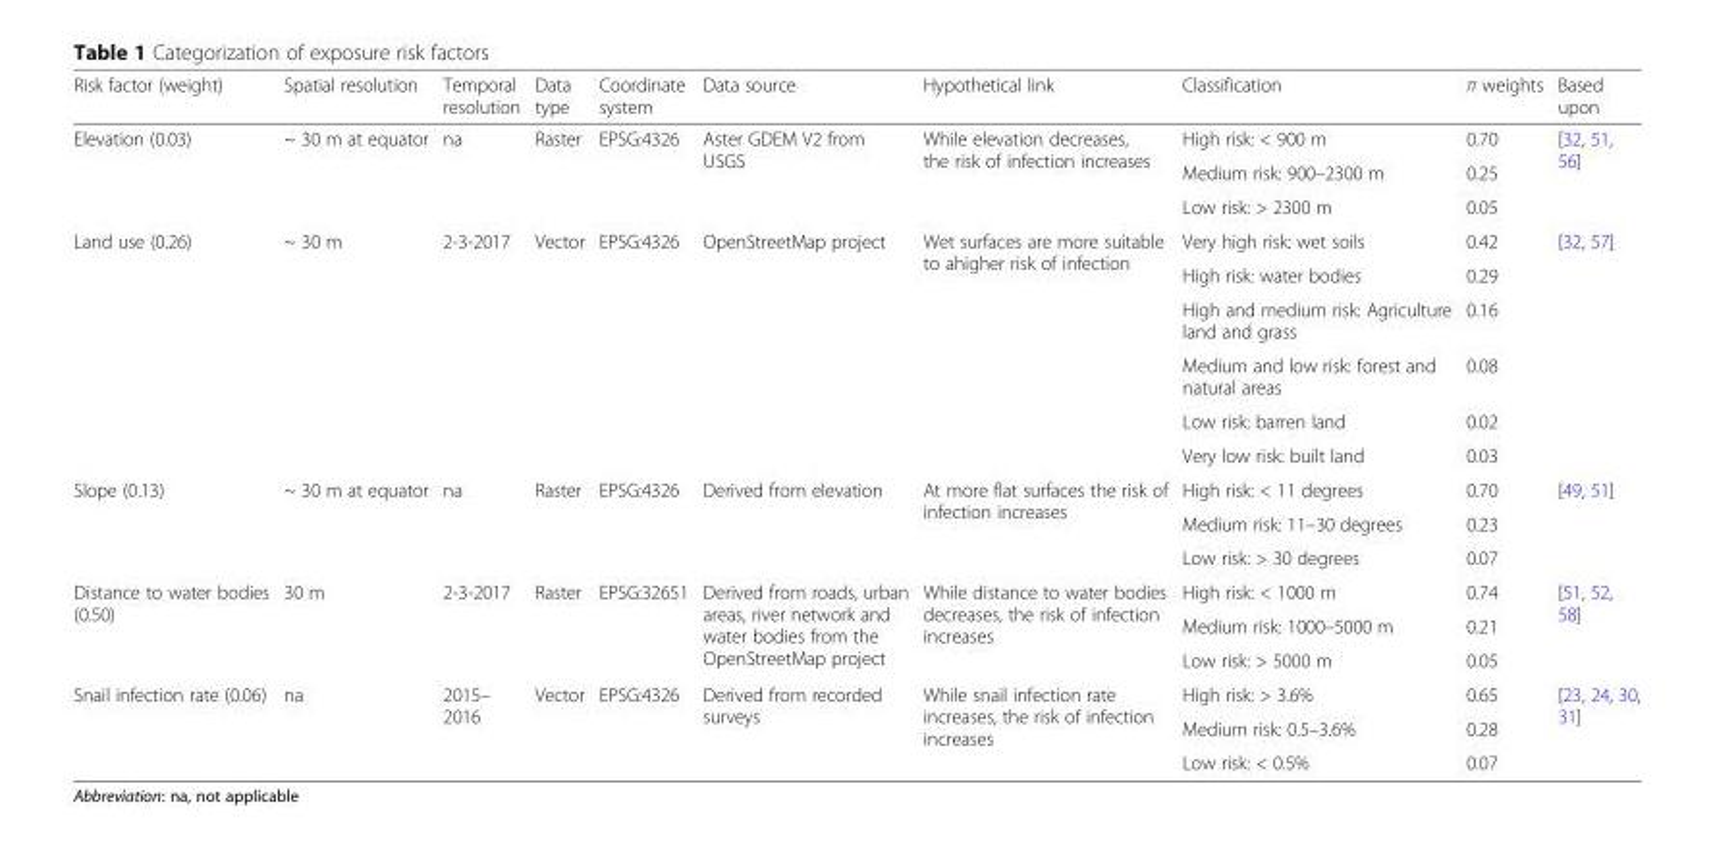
<table><thead><tr><td>Risk factor (weight)</td><td>Spatial resolution</td><td>Temporal resolution</td><td>Data type</td><td>Coordinate system</td><td>Data source</td><td>Hypothetical link</td><td>Classification</td><td>π weights</td><td>Based upon</td></tr></thead><tbody><tr><td rowspan="3">Elevation (0.03)</td><td rowspan="3">~ 30 m at equator</td><td rowspan="3">na</td><td rowspan="3">Raster</td><td rowspan="3">EPSG:4326</td><td rowspan="3">Aster GDEM V2 from USGS</td><td rowspan="3">While elevation decreases, the risk of infection increases</td><td>High risk: &lt; 900 m</td><td>0.70</td><td rowspan="3">[32, 51, 56]</td></tr><tr><td>Medium risk: 900–2300 m</td><td>0.25</td></tr><tr><td>Low risk: &gt; 2300 m</td><td>0.05</td></tr><tr><td rowspan="6">Land use (0.26)</td><td rowspan="6">~ 30 m</td><td rowspan="6">2-3-2017</td><td rowspan="6">Vector</td><td rowspan="6">EPSG:4326</td><td rowspan="6">OpenStreetMap project</td><td rowspan="6">Wet surfaces are more suitable to ahigher risk of infection</td><td>Very high risk: wet soils</td><td>0.42</td><td rowspan="6">[32, 57]</td></tr><tr><td>High risk: water bodies</td><td>0.29</td></tr><tr><td>High and medium risk: Agriculture land and grass</td><td>0.16</td></tr><tr><td>Medium and low risk: forest and natural areas</td><td>0.08</td></tr><tr><td>Low risk: barren land</td><td>0.02</td></tr><tr><td>Very low risk: built land</td><td>0.03</td></tr><tr><td rowspan="3">Slope (0.13)</td><td rowspan="3">~ 30 m at equator</td><td rowspan="3">na</td><td rowspan="3">Raster</td><td rowspan="3">EPSG:4326</td><td rowspan="3">Derived from elevation</td><td rowspan="3">At more flat surfaces the risk of infection increases</td><td>High risk: &lt; 11 degrees</td><td>0.70</td><td rowspan="3">[49, 51]</td></tr><tr><td>Medium risk: 11–30 degrees</td><td>0.23</td></tr><tr><td>Low risk: &gt; 30 degrees</td><td>0.07</td></tr><tr><td rowspan="3">Distance to water bodies (0.50)</td><td rowspan="3">30 m</td><td rowspan="3">2-3-2017</td><td rowspan="3">Raster</td><td rowspan="3">EPSG:32651</td><td rowspan="3">Derived from roads, urban areas, river network and water bodies from the OpenStreetMap project</td><td rowspan="3">While distance to water bodies decreases, the risk of infection increases</td><td>High risk: &lt; 1000 m</td><td>0.74</td><td rowspan="3">[51, 52, 58]</td></tr><tr><td>Medium risk: 1000–5000 m</td><td>0.21</td></tr><tr><td>Low risk: &gt; 5000 m</td><td>0.05</td></tr><tr><td rowspan="3">Snail infection rate (0.06)</td><td rowspan="3">na</td><td rowspan="3">2015– 2016</td><td rowspan="3">Vector</td><td rowspan="3">EPSG:4326</td><td rowspan="3">Derived from recorded surveys</td><td rowspan="3">While snail infection rate increases, the risk of infection increases</td><td>High risk: &gt; 3.6%</td><td>0.65</td><td rowspan="3">[23, 24, 30, 31]</td></tr><tr><td>Medium risk: 0.5–3.6%</td><td>0.28</td></tr><tr><td>Low risk: &lt; 0.5%</td><td>0.07</td></tr></tbody></table>